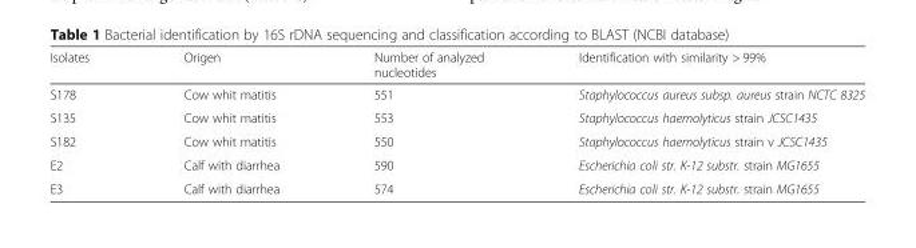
<table><thead><tr><td>Isolates</td><td>Origen</td><td>Number of analyzed nucleotides</td><td>Identification with similarity &gt; 99%</td></tr></thead><tbody><tr><td>S178</td><td>Cow whit matitis</td><td>551</td><td>Staphylococcus aureus subsp. aureus strain NCTC 8325</td></tr><tr><td>S135</td><td>Cow whit matitis</td><td>553</td><td>Staphylococcus haemolyticus strain JCSC1435</td></tr><tr><td>S182</td><td>Cow whit matitis</td><td>550</td><td>Staphylococcus haemolyticus strain v JCSC1435</td></tr><tr><td>E2</td><td>Calf with diarrhea</td><td>590</td><td>Escherichia coli str. K-12 substr. strain MG1655</td></tr><tr><td>E3</td><td>Calf with diarrhea</td><td>574</td><td>Escherichia coli str. K-12 substr. strain MG1655</td></tr></tbody></table>